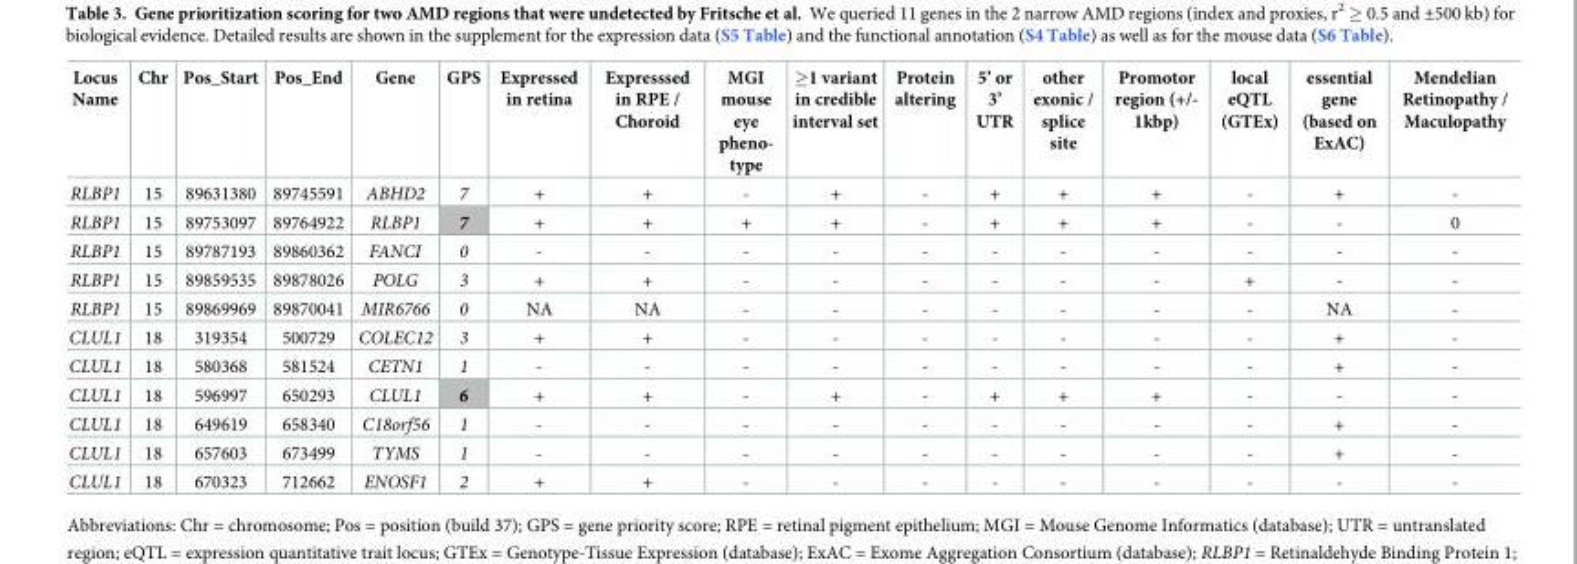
<table><thead><tr><td>Locus Name</td><td>Chr</td><td>Pos_Start</td><td>Pos_End</td><td>Gene</td><td>GPS</td><td>Expressed in retina</td><td>Expresssed in RPE / Choroid</td><td>MGI mouse eye pheno- type</td><td>≥1 variant in credible interval set</td><td>Protein altering</td><td>5’ or 3’ UTR</td><td>other exonic / splice site</td><td>Promotor region (+/- 1kbp)</td><td>local eQTL (GTEx)</td><td>essential gene (based on ExAC)</td><td>Mendelian Retinopathy / Maculopathy</td></tr></thead><tbody><tr><td>RLBP1</td><td>15</td><td>89631380</td><td>89745591</td><td>ABHD2</td><td>7</td><td>+</td><td>+</td><td>-</td><td>+</td><td>-</td><td>+</td><td>+</td><td>+</td><td>-</td><td>+</td><td>-</td></tr><tr><td>RLBP1</td><td>15</td><td>89753097</td><td>89764922</td><td>RLBP1</td><td>7</td><td>+</td><td>+</td><td>+</td><td>+</td><td>-</td><td>+</td><td>+</td><td>+</td><td>-</td><td>-</td><td>0</td></tr><tr><td>RLBP1</td><td>15</td><td>89787193</td><td>89860362</td><td>FANCI</td><td>0</td><td>-</td><td>-</td><td>-</td><td>-</td><td>-</td><td>-</td><td>-</td><td>-</td><td>-</td><td>-</td><td>-</td></tr><tr><td>RLBP1</td><td>15</td><td>89859535</td><td>89878026</td><td>POLG</td><td>3</td><td>+</td><td>+</td><td>-</td><td>-</td><td>-</td><td>-</td><td>-</td><td>-</td><td>+</td><td>-</td><td>-</td></tr><tr><td>RLBP1</td><td>15</td><td>89869969</td><td>89870041</td><td>MIR6766</td><td>0</td><td>NA</td><td>NA</td><td>-</td><td>-</td><td>-</td><td>-</td><td>-</td><td>-</td><td>-</td><td>NA</td><td>-</td></tr><tr><td>CLUL1</td><td>18</td><td>319354</td><td>500729</td><td>COLEC12</td><td>3</td><td>+</td><td>+</td><td>-</td><td>-</td><td>-</td><td>-</td><td>-</td><td>-</td><td>-</td><td>+</td><td>-</td></tr><tr><td>CLUL1</td><td>18</td><td>580368</td><td>581524</td><td>CETN1</td><td>1</td><td>-</td><td>-</td><td>-</td><td>-</td><td>-</td><td>-</td><td>-</td><td>-</td><td>-</td><td>+</td><td>-</td></tr><tr><td>CLUL1</td><td>18</td><td>596997</td><td>650293</td><td>CLUL1</td><td>6</td><td>+</td><td>+</td><td>-</td><td>+</td><td>-</td><td>+</td><td>+</td><td>+</td><td>-</td><td>-</td><td>-</td></tr><tr><td>CLUL1</td><td>18</td><td>649619</td><td>658340</td><td>C18orf56</td><td>1</td><td>-</td><td>-</td><td>-</td><td>-</td><td>-</td><td>-</td><td>-</td><td>-</td><td>-</td><td>+</td><td>-</td></tr><tr><td>CLUL1</td><td>18</td><td>657603</td><td>673499</td><td>TYMS</td><td>1</td><td>-</td><td>-</td><td>-</td><td>-</td><td>-</td><td>-</td><td>-</td><td>-</td><td>-</td><td>+</td><td>-</td></tr><tr><td>CLUL1</td><td>18</td><td>670323</td><td>712662</td><td>ENOSF1</td><td>2</td><td>+</td><td>+</td><td>-</td><td>-</td><td>-</td><td>-</td><td>-</td><td>-</td><td>-</td><td>-</td><td>-</td></tr></tbody></table>